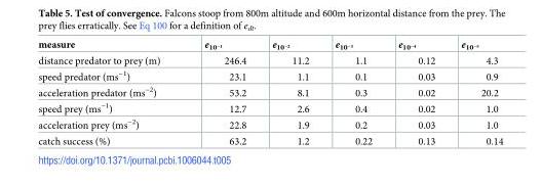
<table><thead><tr><td>measure</td><td>e<sub>10</sub><sup><sub>−1</sub></sup></td><td>e<sub>10</sub><sup><sub>−2</sub></sup></td><td>e<sub>10</sub><sup><sub>−3</sub></sup></td><td>e<sub>10</sub><sup><sub>−4</sub></sup></td><td>e<sub>10</sub><sup><sub>−5</sub></sup></td></tr></thead><tbody><tr><td>distance predator to prey (m)</td><td>246.4</td><td>11.2</td><td>1.1</td><td>0.12</td><td>4.3</td></tr><tr><td>speed predator (ms<sup>−1</sup>)</td><td>23.1</td><td>1.1</td><td>0.1</td><td>0.03</td><td>0.9</td></tr><tr><td>acceleration predator (ms<sup>−2</sup>)</td><td>53.2</td><td>8.1</td><td>0.3</td><td>0.02</td><td>20.2</td></tr><tr><td>speed prey (ms<sup>−1</sup>)</td><td>12.7</td><td>2.6</td><td>0.4</td><td>0.02</td><td>1.0</td></tr><tr><td>acceleration prey (ms<sup>−2</sup>)</td><td>22.8</td><td>1.9</td><td>0.2</td><td>0.03</td><td>1.0</td></tr><tr><td>catch success (%)</td><td>63.2</td><td>1.2</td><td>0.22</td><td>0.13</td><td>0.14</td></tr></tbody></table>